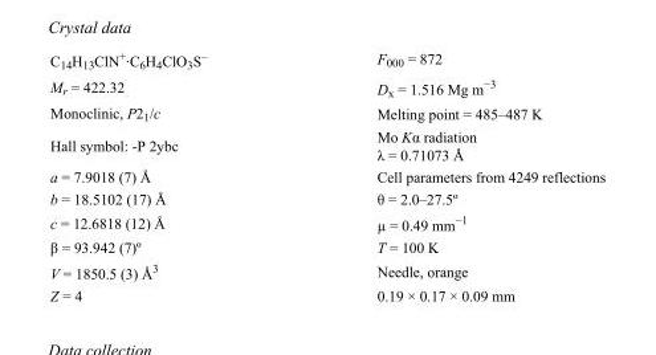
<table><tbody><tr><td>C<sub>14</sub>H<sub>13</sub>ClN<sup>+</sup>·C<sub>6</sub>H<sub>4</sub>ClO<sub>3</sub>S<sup>–</sup></td><td>F000 = 872</td></tr><tr><td>M<sub>r</sub> = 422.32</td><td>D<sub>x</sub> = 1.516 Mg m<sup>−3</sup></td></tr><tr><td>Monoclinic, P2<sub>1</sub>/c</td><td>Melting point = 485–487 K</td></tr><tr><td>Hall symbol: -P 2ybc</td><td>Mo Kα radiation λ = 0.71073 Å</td></tr><tr><td>a = 7.9018 (7) Å</td><td>Cell parameters from 4249 reflections</td></tr><tr><td>b = 18.5102 (17) Å</td><td>θ = 2.0–27.5º</td></tr><tr><td>c = 12.6818 (12) Å</td><td>µ = 0.49 mm<sup>−1</sup></td></tr><tr><td>β = 93.942 (7)º</td><td>T = 100 K</td></tr><tr><td>V = 1850.5 (3) Å<sup>3</sup></td><td>Needle, orange</td></tr><tr><td>Z = 4</td><td>0.19 × 0.17 × 0.09 mm</td></tr></tbody></table>